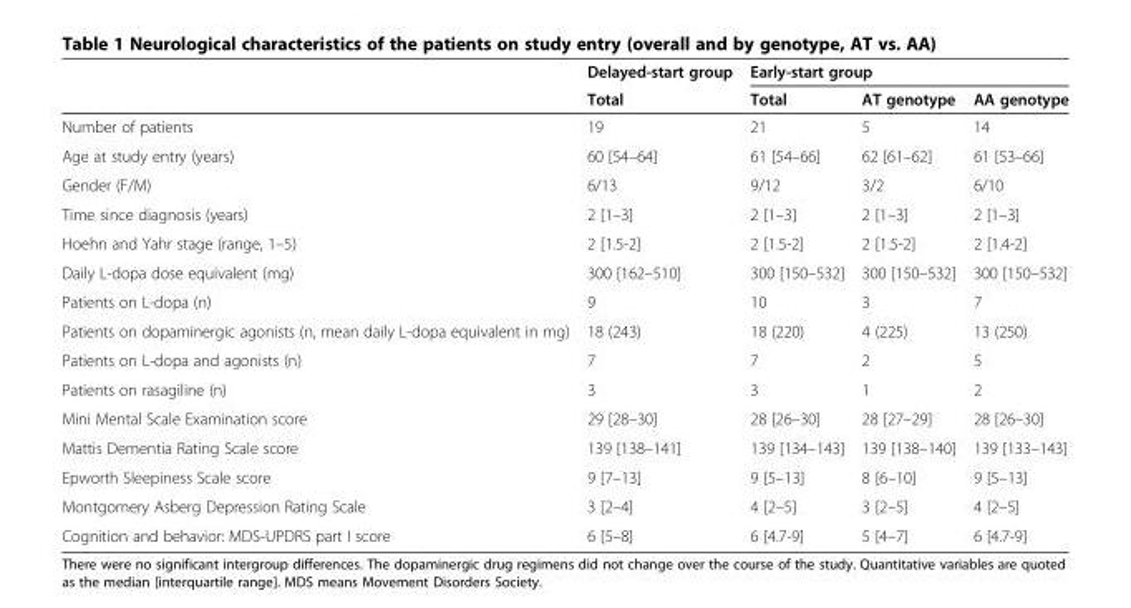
<table><thead><tr><td rowspan="2"></td><td rowspan="2">Delayed-start group Total</td><td colspan="3">Early-start group</td></tr><tr><td>Total</td><td>AT genotype</td><td>AA genotype</td></tr></thead><tbody><tr><td>Number of patients</td><td>19</td><td>21</td><td>5</td><td>14</td></tr><tr><td>Age at study entry (years)</td><td>60 [54–64]</td><td>61 [54–66]</td><td>62 [61–62]</td><td>61 [53–66]</td></tr><tr><td>Gender (F/M)</td><td>6/13</td><td>9/12</td><td>3/2</td><td>6/10</td></tr><tr><td>Time since diagnosis (years)</td><td>2 [1–3]</td><td>2 [1–3]</td><td>2 [1–3]</td><td>2 [1–3]</td></tr><tr><td>Hoehn and Yahr stage (range, 1–5)</td><td>2 [1.5-2]</td><td>2 [1.5-2]</td><td>2 [1.5-2]</td><td>2 [1.4-2]</td></tr><tr><td>Daily L-dopa dose equivalent (mg)</td><td>300 [162–510]</td><td>300 [150–532]</td><td>300 [150–532]</td><td>300 [150–532]</td></tr><tr><td>Patients on L-dopa (n)</td><td>9</td><td>10</td><td>3</td><td>7</td></tr><tr><td>Patients on dopaminergic agonists (n, mean daily L-dopa equivalent in mg)</td><td>18 (243)</td><td>18 (220)</td><td>4 (225)</td><td>13 (250)</td></tr><tr><td>Patients on L-dopa and agonists (n)</td><td>7</td><td>7</td><td>2</td><td>5</td></tr><tr><td>Patients on rasagiline (n)</td><td>3</td><td>3</td><td>1</td><td>2</td></tr><tr><td>Mini Mental Scale Examination score</td><td>29 [28–30]</td><td>28 [26–30]</td><td>28 [27–29]</td><td>28 [26–30]</td></tr><tr><td>Mattis Dementia Rating Scale score</td><td>139 [138–141]</td><td>139 [134–143]</td><td>139 [138–140]</td><td>139 [133–143]</td></tr><tr><td>Epworth Sleepiness Scale score</td><td>9 [7–13]</td><td>9 [5–13]</td><td>8 [6–10]</td><td>9 [5–13]</td></tr><tr><td>Montgomery Asberg Depression Rating Scale</td><td>3 [2–4]</td><td>4 [2–5]</td><td>3 [2–5]</td><td>4 [2–5]</td></tr><tr><td>Cognition and behavior: MDS-UPDRS part I score</td><td>6 [5–8]</td><td>6 [4.7-9]</td><td>5 [4–7]</td><td>6 [4.7-9]</td></tr></tbody></table>